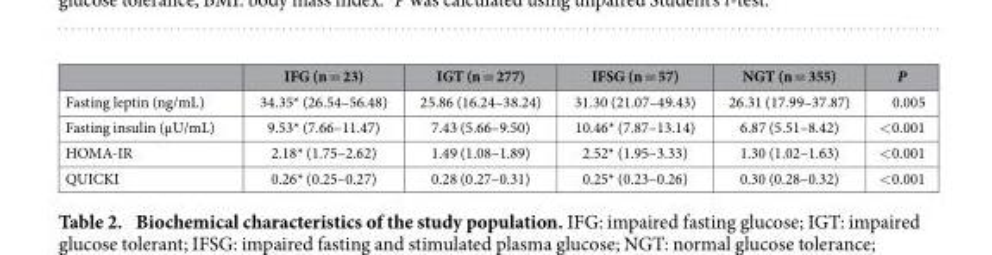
<table><thead><tr><td></td><td>IFG (n = 23)</td><td>IGT (n = 277)</td><td>IFSG (n = 57)</td><td>NGT (n = 355)</td><td>P</td></tr></thead><tbody><tr><td>Fasting leptin (ng/mL)</td><td>34.35* (26.54–56.48)</td><td>25.86 (16.24–38.24)</td><td>31.30 (21.07–49.43)</td><td>26.31 (17.99–37.87)</td><td>0.005</td></tr><tr><td>Fasting insulin (μU/mL)</td><td>9.53* (7.66–11.47)</td><td>7.43 (5.66–9.50)</td><td>10.46* (7.87–13.14)</td><td>6.87 (5.51–8.42)</td><td>&lt; 0.001</td></tr><tr><td>HOMA-IR</td><td>2.18* (1.75–2.62)</td><td>1.49 (1.08–1.89)</td><td>2.52* (1.95–3.33)</td><td>1.30 (1.02–1.63)</td><td>&lt; 0.001</td></tr><tr><td>QUICKI</td><td>0.26* (0.25–0.27)</td><td>0.28 (0.27–0.31)</td><td>0.25* (0.23–0.26)</td><td>0.30 (0.28–0.32)</td><td>&lt; 0.001</td></tr></tbody></table>